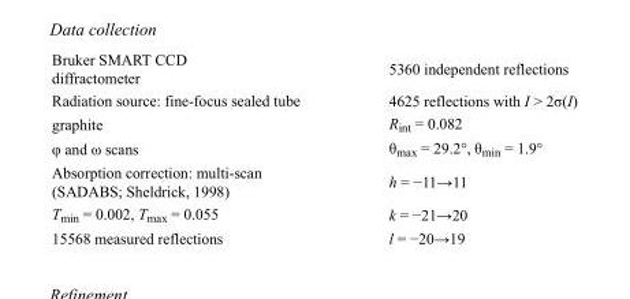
<table><tbody><tr><td>Bruker SMART CCD diffractometer</td><td>5360 independent reflections</td></tr><tr><td>Radiation source: fine-focus sealed tube</td><td>4625 reflections with I &gt; 2σ(I)</td></tr><tr><td>graphite</td><td>R<sub>int</sub> = 0.082</td></tr><tr><td>φ and ω scans</td><td>θ<sub>max</sub> = 29.2°, θ<sub>min</sub> = 1.9°</td></tr><tr><td>Absorption correction: multi-scan (SADABS; Sheldrick, 1998)</td><td>h = −11→11</td></tr><tr><td>T<sub>min</sub> = 0.002, T<sub>max</sub> = 0.055</td><td>k = −21→20</td></tr><tr><td>15568 measured reflections</td><td>l = −20→19</td></tr></tbody></table>